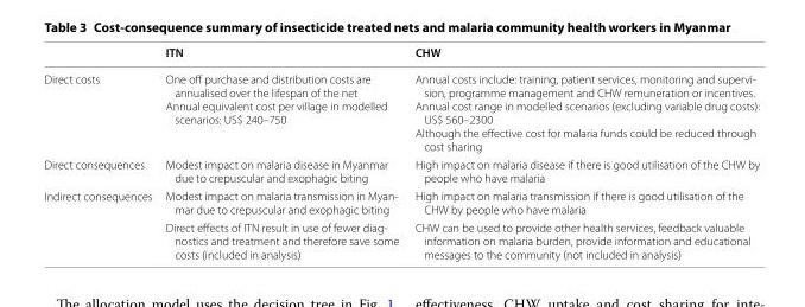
<table><thead><tr><td></td><td>ITN</td><td>CHW</td></tr></thead><tbody><tr><td>Direct costs</td><td>One off purchase and distribution costs are annualised over the lifespan of the net Annual equivalent cost per village in modelled scenarios: US$ 240–750</td><td>Annual costs include: training, patient services, monitoring and supervi- sion, programme management and CHW remuneration or incentives. Annual cost range in modelled scenarios (excluding variable drug costs): US$ 560–2300 Although the effective cost for malaria funds could be reduced through cost sharing</td></tr><tr><td>Direct consequences</td><td>Modest impact on malaria disease in Myanmar due to crepuscular and exophagic biting</td><td>High impact on malaria disease if there is good utilisation of the CHW by people who have malaria</td></tr><tr><td rowspan="2">Indirect consequences</td><td>Modest impact on malaria transmission in Myan- mar due to crepuscular and exophagic biting</td><td>High impact on malaria transmission if there is good utilisation of the CHW by people who have malaria</td></tr><tr><td>Direct effects of ITN result in use of fewer diag- nostics and treatment and therefore save some costs (included in analysis)</td><td>CHW can be used to provide other health services, feedback valuable information on malaria burden, provide information and educational messages to the community (not included in analysis)</td></tr></tbody></table>